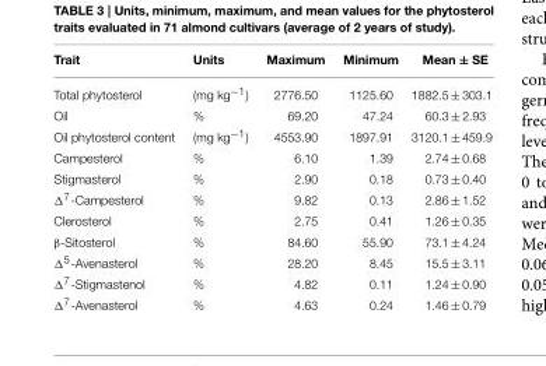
<table><thead><tr><td>Trait</td><td>Units</td><td>Maximum</td><td>Minimum</td><td>Mean ± SE</td></tr></thead><tbody><tr><td>Total phytosterol</td><td>(mg kg<sup>−1</sup>)</td><td>2776.50</td><td>1125.60</td><td>1882.5 ± 303.1</td></tr><tr><td>Oil</td><td>%</td><td>69.20</td><td>47.24</td><td>60.3 ± 2.93</td></tr><tr><td>Oil phytosterol content</td><td>(mg kg<sup>−1</sup>)</td><td>4553.90</td><td>1897.91</td><td>3120.1 ± 459.9</td></tr><tr><td>Campesterol</td><td>%</td><td>6.10</td><td>1.39</td><td>2.74 ± 0.68</td></tr><tr><td>Stigmasterol</td><td>%</td><td>2.90</td><td>0.18</td><td>0.73 ± 0.40</td></tr><tr><td>Δ<sup>7</sup>-Campesterol</td><td>%</td><td>9.82</td><td>0.13</td><td>2.86 ± 1.52</td></tr><tr><td>Clerosterol</td><td>%</td><td>2.75</td><td>0.41</td><td>1.26 ± 0.35</td></tr><tr><td>β-Sitosterol</td><td>%</td><td>84.60</td><td>55.90</td><td>73.1 ± 4.24</td></tr><tr><td>Δ<sup>5</sup>-Avenasterol</td><td>%</td><td>28.20</td><td>8.45</td><td>15.5 ± 3.11</td></tr><tr><td>Δ<sup>7</sup>-Stigmastenol</td><td>%</td><td>4.82</td><td>0.11</td><td>1.24 ± 0.90</td></tr><tr><td>Δ<sup>7</sup>-Avenasterol</td><td>%</td><td>4.63</td><td>0.24</td><td>1.46 ± 0.79</td></tr></tbody></table>